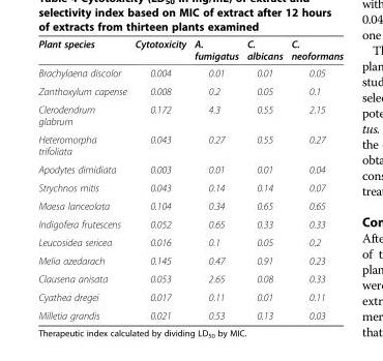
<table><thead><tr><td>Plant species</td><td>Cytotoxicity</td><td>A. fumigatus</td><td>C. albicans</td><td>C. neoformans</td></tr></thead><tbody><tr><td>Brachylaena discolor</td><td>0.004</td><td>0.01</td><td>0.01</td><td>0.05</td></tr><tr><td>Zanthoxylum capense</td><td>0.008</td><td>0.2</td><td>0.05</td><td>0.1</td></tr><tr><td>Clerodendrum glabrum</td><td>0.172</td><td>4.3</td><td>0.55</td><td>2.15</td></tr><tr><td>Heteromorpha trifoliata</td><td>0.043</td><td>0.27</td><td>0.55</td><td>0.27</td></tr><tr><td>Apodytes dimidiata</td><td>0.003</td><td>0.01</td><td>0.01</td><td>0.04</td></tr><tr><td>Strychnos mitis</td><td>0.043</td><td>0.14</td><td>0.14</td><td>0.07</td></tr><tr><td>Maesa lanceolata</td><td>0.104</td><td>0.34</td><td>0.65</td><td>0.65</td></tr><tr><td>Indigofera frutescens</td><td>0.052</td><td>0.65</td><td>0.33</td><td>0.33</td></tr><tr><td>Leucosidea sericea</td><td>0.016</td><td>0.1</td><td>0.05</td><td>0.2</td></tr><tr><td>Melia azedarach</td><td>0.145</td><td>0.47</td><td>0.91</td><td>0.23</td></tr><tr><td>Clausena anisata</td><td>0.053</td><td>2.65</td><td>0.08</td><td>0.33</td></tr><tr><td>Cyathea dregei</td><td>0.017</td><td>0.11</td><td>0.01</td><td>0.11</td></tr><tr><td>Milletia grandis</td><td>0.021</td><td>0.53</td><td>0.13</td><td>0.03</td></tr></tbody></table>